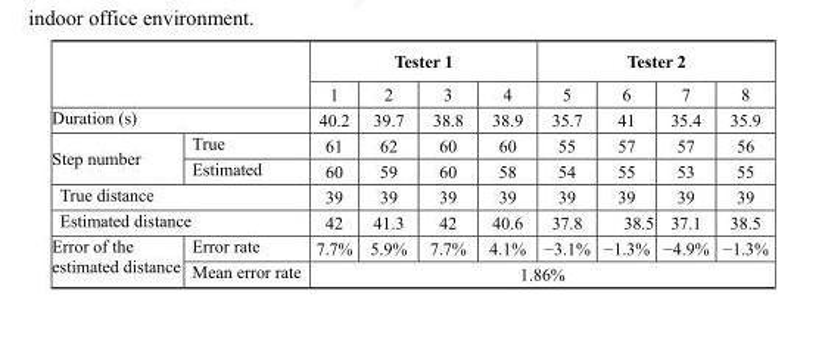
<table><thead><tr><td rowspan="2"></td><td rowspan="2"></td><td colspan="4">Tester 1</td><td colspan="4">Tester 2</td></tr><tr><td>1</td><td>2</td><td>3</td><td>4</td><td>5</td><td>6</td><td>7</td><td>8</td></tr></thead><tbody><tr><td colspan="2">Duration (s)</td><td>40.2</td><td>39.7</td><td>38.8</td><td>38.9</td><td>35.7</td><td>41</td><td>35.4</td><td>35.9</td></tr><tr><td rowspan="2">Step number</td><td>True</td><td>61</td><td>62</td><td>60</td><td>60</td><td>55</td><td>57</td><td>57</td><td>56</td></tr><tr><td>Estimated</td><td>60</td><td>59</td><td>60</td><td>58</td><td>54</td><td>55</td><td>53</td><td>55</td></tr><tr><td colspan="2">True distance</td><td>39</td><td>39</td><td>39</td><td>39</td><td>39</td><td>39</td><td>39</td><td>39</td></tr><tr><td colspan="2">Estimated distance</td><td>42</td><td>41.3</td><td>42</td><td>40.6</td><td>37.8</td><td>38.5</td><td>37.1</td><td>38.5</td></tr><tr><td rowspan="2">Error of the estimated distance</td><td>Error rate</td><td>7.7%</td><td>5.9%</td><td>7.7%</td><td>4.1%</td><td>−3.1%</td><td>−1.3%</td><td>−4.9%</td><td>−1.3%</td></tr><tr><td>Mean error rate</td><td colspan="8">1.86%</td></tr></tbody></table>